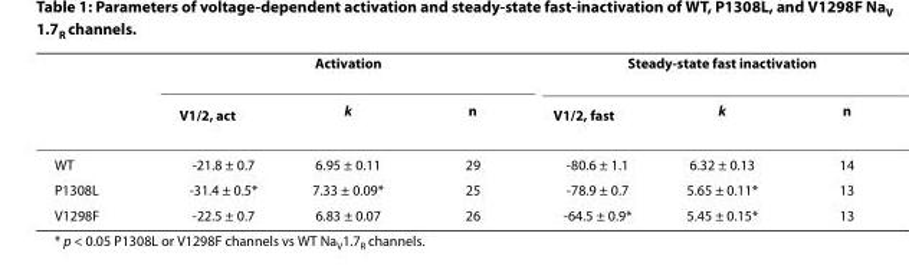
<table><thead><tr><td rowspan="2"></td><td colspan="3">Activation</td><td colspan="3">Steady-state fast inactivation</td></tr><tr><td>V<sub>1/2, act</sub></td><td>k</td><td>n</td><td>V<sub>1/2, fast</sub></td><td>k</td><td>n</td></tr></thead><tbody><tr><td>WT</td><td>-21.8 ± 0.7</td><td>6.95 ± 0.11</td><td>29</td><td>-80.6 ± 1.1</td><td>6.32 ± 0.13</td><td>14</td></tr><tr><td>P1308L</td><td>-31.4 ± 0.5*</td><td>7.33 ± 0.09*</td><td>25</td><td>-78.9 ± 0.7</td><td>5.65 ± 0.11*</td><td>13</td></tr><tr><td>V1298F</td><td>-22.5 ± 0.7</td><td>6.83 ± 0.07</td><td>26</td><td>-64.5 ± 0.9*</td><td>5.45 ± 0.15*</td><td>13</td></tr></tbody></table>